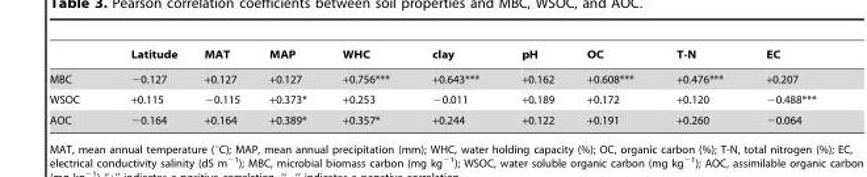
<table><thead><tr><td></td><td>Latitude</td><td>MAT</td><td>MAP</td><td>WHC</td><td>clay</td><td>pH</td><td>OC</td><td>T-N</td><td>EC</td></tr></thead><tbody><tr><td>MBC</td><td>−0.127</td><td>+0.127</td><td>+0.127</td><td>+0.756***</td><td>+0.643***</td><td>+0.162</td><td>+0.608***</td><td>+0.476***</td><td>+0.207</td></tr><tr><td>WSOC</td><td>+0.115</td><td>−0.115</td><td>+0.373*</td><td>+0.253</td><td>−0.011</td><td>+0.189</td><td>+0.172</td><td>+0.120</td><td>−0.488***</td></tr><tr><td>AOC</td><td>−0.164</td><td>+0.164</td><td>+0.389*</td><td>+0.357*</td><td>+0.244</td><td>+0.122</td><td>+0.191</td><td>+0.260</td><td>−0.064</td></tr></tbody></table>